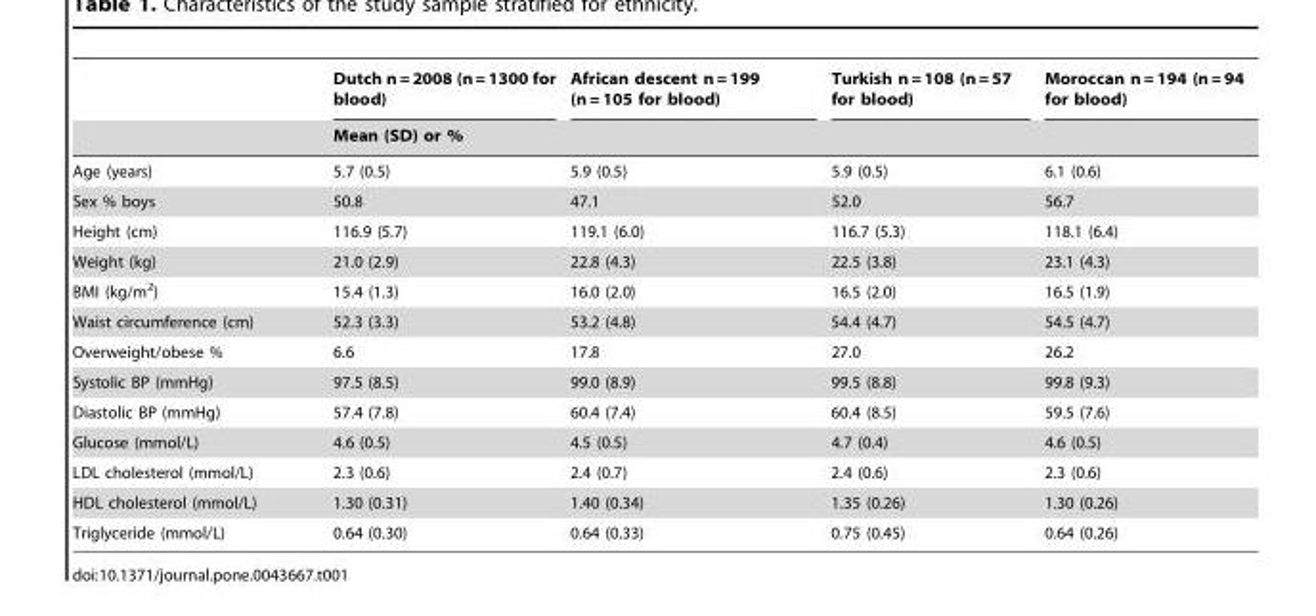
<table><thead><tr><td rowspan="2"></td><td>Dutch n = 2008 (n = 1300 for blood)</td><td>African descent n = 199 (n = 105 for blood)</td><td>Turkish n = 108 (n = 57 for blood)</td><td>Moroccan n = 194 (n = 94 for blood)</td></tr><tr><td colspan="4">Mean (SD) or %</td></tr></thead><tbody><tr><td>Age (years)</td><td>5.7 (0.5)</td><td>5.9 (0.5)</td><td>5.9 (0.5)</td><td>6.1 (0.6)</td></tr><tr><td>Sex % boys</td><td>50.8</td><td>47.1</td><td>52.0</td><td>56.7</td></tr><tr><td>Height (cm)</td><td>116.9 (5.7)</td><td>119.1 (6.0)</td><td>116.7 (5.3)</td><td>118.1 (6.4)</td></tr><tr><td>Weight (kg)</td><td>21.0 (2.9)</td><td>22.8 (4.3)</td><td>22.5 (3.8)</td><td>23.1 (4.3)</td></tr><tr><td>BMI (kg/m<sup>2</sup>)</td><td>15.4 (1.3)</td><td>16.0 (2.0)</td><td>16.5 (2.0)</td><td>16.5 (1.9)</td></tr><tr><td>Waist circumference (cm)</td><td>52.3 (3.3)</td><td>53.2 (4.8)</td><td>54.4 (4.7)</td><td>54.5 (4.7)</td></tr><tr><td>Overweight/obese %</td><td>6.6</td><td>17.8</td><td>27.0</td><td>26.2</td></tr><tr><td>Systolic BP (mmHg)</td><td>97.5 (8.5)</td><td>99.0 (8.9)</td><td>99.5 (8.8)</td><td>99.8 (9.3)</td></tr><tr><td>Diastolic BP (mmHg)</td><td>57.4 (7.8)</td><td>60.4 (7.4)</td><td>60.4 (8.5)</td><td>59.5 (7.6)</td></tr><tr><td>Glucose (mmol/L)</td><td>4.6 (0.5)</td><td>4.5 (0.5)</td><td>4.7 (0.4)</td><td>4.6 (0.5)</td></tr><tr><td>LDL cholesterol (mmol/L)</td><td>2.3 (0.6)</td><td>2.4 (0.7)</td><td>2.4 (0.6)</td><td>2.3 (0.6)</td></tr><tr><td>HDL cholesterol (mmol/L)</td><td>1.30 (0.31)</td><td>1.40 (0.34)</td><td>1.35 (0.26)</td><td>1.30 (0.26)</td></tr><tr><td>Triglyceride (mmol/L)</td><td>0.64 (0.30)</td><td>0.64 (0.33)</td><td>0.75 (0.45)</td><td>0.64 (0.26)</td></tr></tbody></table>